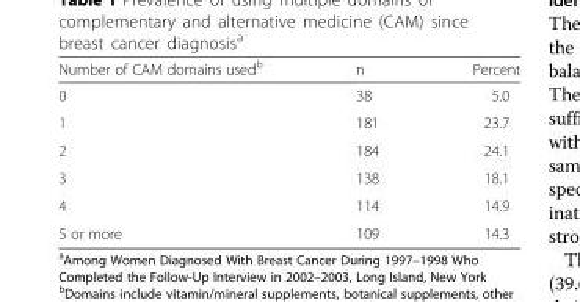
<table><thead><tr><td>Number of CAM domains used<sup>b</sup></td><td>n</td><td>Percent</td></tr></thead><tbody><tr><td>0</td><td>38</td><td>5.0</td></tr><tr><td>1</td><td>181</td><td>23.7</td></tr><tr><td>2</td><td>184</td><td>24.1</td></tr><tr><td>3</td><td>138</td><td>18.1</td></tr><tr><td>4</td><td>114</td><td>14.9</td></tr><tr><td>5 or more</td><td>109</td><td>14.3</td></tr></tbody></table>